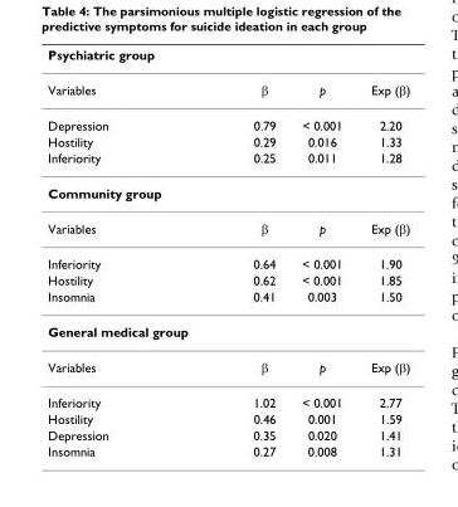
<table><thead><tr><td>Psychiatric group</td><td></td><td></td><td></td></tr></thead><tbody><tr><td>Variables</td><td>β</td><td>p</td><td>Exp (β)</td></tr><tr><td>Depression</td><td>0.79</td><td>&lt; 0.001</td><td>2.20</td></tr><tr><td>Hostility</td><td>0.29</td><td>0.016</td><td>1.33</td></tr><tr><td>Inferiority</td><td>0.25</td><td>0.011</td><td>1.28</td></tr><tr><td colspan="4">Community group</td></tr><tr><td>Variables</td><td>β</td><td>p</td><td>Exp (β)</td></tr><tr><td>Inferiority</td><td>0.64</td><td>&lt; 0.001</td><td>1.90</td></tr><tr><td>Hostility</td><td>0.62</td><td>&lt; 0.001</td><td>1.85</td></tr><tr><td>Insomnia</td><td>0.41</td><td>0.003</td><td>1.50</td></tr><tr><td colspan="4">General medical group</td></tr><tr><td>Variables</td><td>β</td><td>p</td><td>Exp (β)</td></tr><tr><td>Inferiority</td><td>1.02</td><td>&lt; 0.001</td><td>2.77</td></tr><tr><td>Hostility</td><td>0.46</td><td>0.001</td><td>1.59</td></tr><tr><td>Depression</td><td>0.35</td><td>0.020</td><td>1.41</td></tr><tr><td>Insomnia</td><td>0.27</td><td>0.008</td><td>1.31</td></tr></tbody></table>